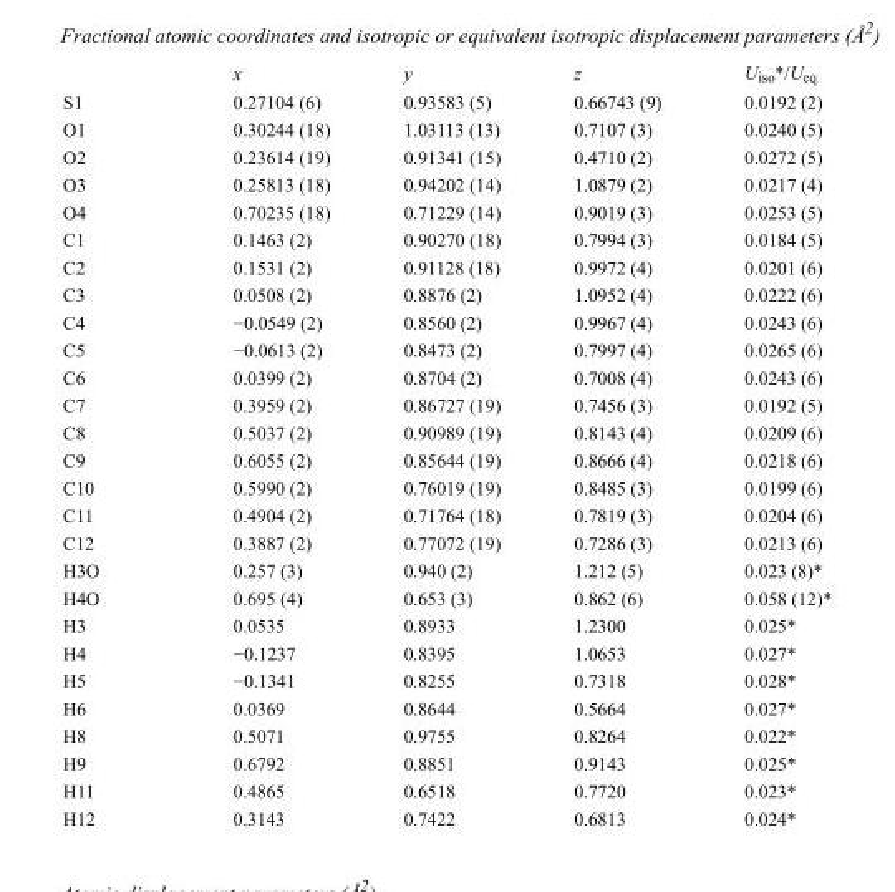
<table><thead><tr><td></td><td>x</td><td>y</td><td>z</td><td>U<sub>iso</sub>*/U<sub>eq</sub></td></tr></thead><tbody><tr><td>S1</td><td>0.27104 (6)</td><td>0.93583 (5)</td><td>0.66743 (9)</td><td>0.0192 (2)</td></tr><tr><td>O1</td><td>0.30244 (18)</td><td>1.03113 (13)</td><td>0.7107 (3)</td><td>0.0240 (5)</td></tr><tr><td>O2</td><td>0.23614 (19)</td><td>0.91341 (15)</td><td>0.4710 (2)</td><td>0.0272 (5)</td></tr><tr><td>O3</td><td>0.25813 (18)</td><td>0.94202 (14)</td><td>1.0879 (2)</td><td>0.0217 (4)</td></tr><tr><td>O4</td><td>0.70235 (18)</td><td>0.71229 (14)</td><td>0.9019 (3)</td><td>0.0253 (5)</td></tr><tr><td>C1</td><td>0.1463 (2)</td><td>0.90270 (18)</td><td>0.7994 (3)</td><td>0.0184 (5)</td></tr><tr><td>C2</td><td>0.1531 (2)</td><td>0.91128 (18)</td><td>0.9972 (4)</td><td>0.0201 (6)</td></tr><tr><td>C3</td><td>0.0508 (2)</td><td>0.8876 (2)</td><td>1.0952 (4)</td><td>0.0222 (6)</td></tr><tr><td>C4</td><td>−0.0549 (2)</td><td>0.8560 (2)</td><td>0.9967 (4)</td><td>0.0243 (6)</td></tr><tr><td>C5</td><td>−0.0613 (2)</td><td>0.8473 (2)</td><td>0.7997 (4)</td><td>0.0265 (6)</td></tr><tr><td>C6</td><td>0.0399 (2)</td><td>0.8704 (2)</td><td>0.7008 (4)</td><td>0.0243 (6)</td></tr><tr><td>C7</td><td>0.3959 (2)</td><td>0.86727 (19)</td><td>0.7456 (3)</td><td>0.0192 (5)</td></tr><tr><td>C8</td><td>0.5037 (2)</td><td>0.90989 (19)</td><td>0.8143 (4)</td><td>0.0209 (6)</td></tr><tr><td>C9</td><td>0.6055 (2)</td><td>0.85644 (19)</td><td>0.8666 (4)</td><td>0.0218 (6)</td></tr><tr><td>C10</td><td>0.5990 (2)</td><td>0.76019 (19)</td><td>0.8485 (3)</td><td>0.0199 (6)</td></tr><tr><td>C11</td><td>0.4904 (2)</td><td>0.71764 (18)</td><td>0.7819 (3)</td><td>0.0204 (6)</td></tr><tr><td>C12</td><td>0.3887 (2)</td><td>0.77072 (19)</td><td>0.7286 (3)</td><td>0.0213 (6)</td></tr><tr><td>H3O</td><td>0.257 (3)</td><td>0.940 (2)</td><td>1.212 (5)</td><td>0.023 (8)*</td></tr><tr><td>H4O</td><td>0.695 (4)</td><td>0.653 (3)</td><td>0.862 (6)</td><td>0.058 (12)*</td></tr><tr><td>H3</td><td>0.0535</td><td>0.8933</td><td>1.2300</td><td>0.025*</td></tr><tr><td>H4</td><td>−0.1237</td><td>0.8395</td><td>1.0653</td><td>0.027*</td></tr><tr><td>H5</td><td>−0.1341</td><td>0.8255</td><td>0.7318</td><td>0.028*</td></tr><tr><td>H6</td><td>0.0369</td><td>0.8644</td><td>0.5664</td><td>0.027*</td></tr><tr><td>H8</td><td>0.5071</td><td>0.9755</td><td>0.8264</td><td>0.022*</td></tr><tr><td>H9</td><td>0.6792</td><td>0.8851</td><td>0.9143</td><td>0.025*</td></tr><tr><td>H11</td><td>0.4865</td><td>0.6518</td><td>0.7720</td><td>0.023*</td></tr><tr><td>H12</td><td>0.3143</td><td>0.7422</td><td>0.6813</td><td>0.024*</td></tr></tbody></table>